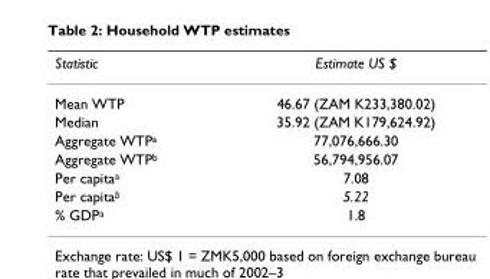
<table><thead><tr><td>Statistic</td><td>Estimate US $</td></tr></thead><tbody><tr><td>Mean WTP</td><td>46.67 (ZAM K233,380.02)</td></tr><tr><td>Median</td><td>35.92 (ZAM K179,624.92)</td></tr><tr><td>Aggregate WTP<sup>a</sup></td><td>77,076,666.30</td></tr><tr><td>Aggregate WTP<sup>b</sup></td><td>56,794,956.07</td></tr><tr><td>Per capita<sup>a</sup></td><td>7.08</td></tr><tr><td>Per capita<sup>b</sup></td><td>5.22</td></tr><tr><td>% GDP<sup>a</sup></td><td>1.8</td></tr></tbody></table>